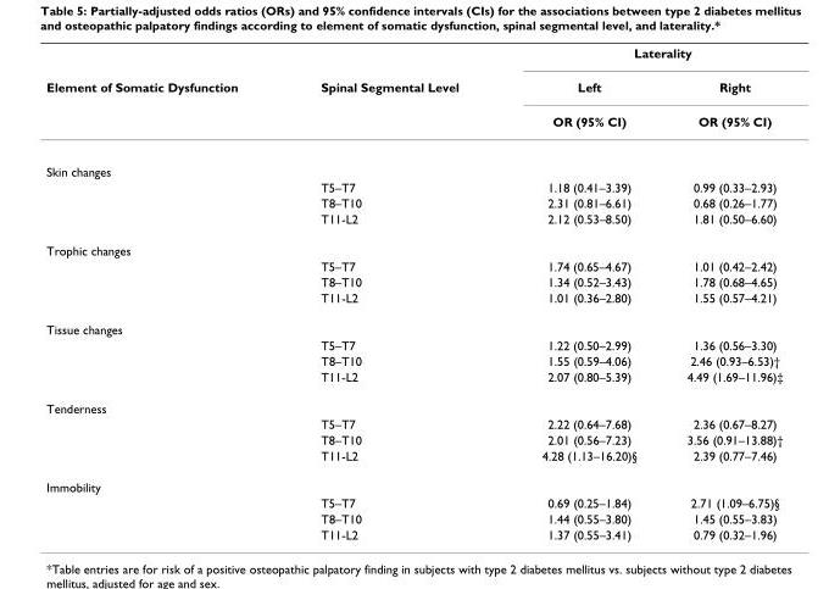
<table><thead><tr><td rowspan="3">Element of Somatic Dysfunction</td><td rowspan="3">Spinal Segmental Level</td><td colspan="2">Laterality</td></tr><tr><td rowspan="2">Left OR (95% CI)</td><td rowspan="2">Right OR (95% CI)</td></tr><tr></tr></thead><tbody><tr><td colspan="4">Skin changes</td></tr><tr><td></td><td>T5–T7</td><td>1.18 (0.41–3.39)</td><td>0.99 (0.33–2.93)</td></tr><tr><td></td><td>T8–T10</td><td>2.31 (0.81–6.61)</td><td>0.68 (0.26–1.77)</td></tr><tr><td></td><td>T11-L2</td><td>2.12 (0.53–8.50)</td><td>1.81 (0.50–6.60)</td></tr><tr><td colspan="4">Trophic changes</td></tr><tr><td></td><td>T5–T7</td><td>1.74 (0.65–4.67)</td><td>1.01 (0.42–2.42)</td></tr><tr><td></td><td>T8–T10</td><td>1.34 (0.52–3.43)</td><td>1.78 (0.68–4.65)</td></tr><tr><td></td><td>T11-L2</td><td>1.01 (0.36–2.80)</td><td>1.55 (0.57–4.21)</td></tr><tr><td colspan="4">Tissue changes</td></tr><tr><td></td><td>T5–T7</td><td>1.22 (0.50–2.99)</td><td>1.36 (0.56–3.30)</td></tr><tr><td></td><td>T8–T10</td><td>1.55 (0.59–4.06)</td><td>2.46 (0.93–6.53)†</td></tr><tr><td></td><td>T11-L2</td><td>2.07 (0.80–5.39)</td><td>4.49 (1.69–11.96)‡</td></tr><tr><td colspan="4">Tenderness</td></tr><tr><td></td><td>T5–T7</td><td>2.22 (0.64–7.68)</td><td>2.36 (0.67–8.27)</td></tr><tr><td></td><td>T8–T10</td><td>2.01 (0.56–7.23)</td><td>3.56 (0.91–13.88)†</td></tr><tr><td></td><td>T11-L2</td><td>4.28 (1.13–16.20)§</td><td>2.39 (0.77–7.46)</td></tr><tr><td colspan="4">Immobility</td></tr><tr><td></td><td>T5–T7</td><td>0.69 (0.25–1.84)</td><td>2.71 (1.09–6.75)§</td></tr><tr><td></td><td>T8–T10</td><td>1.44 (0.55–3.80)</td><td>1.45 (0.55–3.83)</td></tr><tr><td></td><td>T11-L2</td><td>1.37 (0.55–3.41)</td><td>0.79 (0.32–1.96)</td></tr></tbody></table>